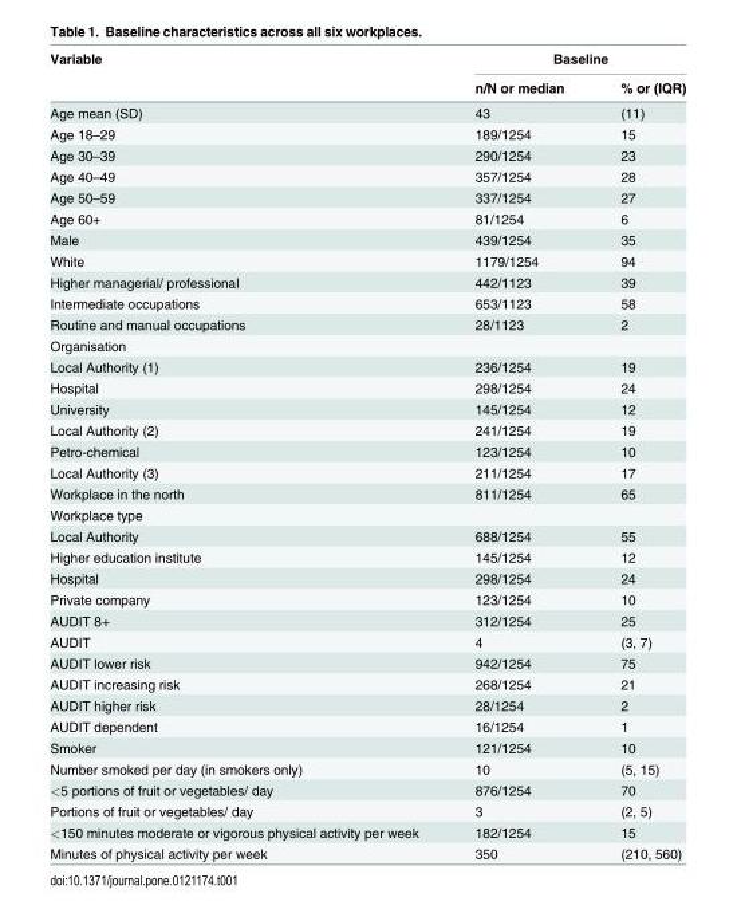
<table><thead><tr><td rowspan="2">Variable</td><td colspan="2">Baseline</td></tr><tr><td>n/N or median</td><td>% or (IQR)</td></tr></thead><tbody><tr><td>Age mean (SD)</td><td>43</td><td>(11)</td></tr><tr><td>Age 18–29</td><td>189/1254</td><td>15</td></tr><tr><td>Age 30–39</td><td>290/1254</td><td>23</td></tr><tr><td>Age 40–49</td><td>357/1254</td><td>28</td></tr><tr><td>Age 50–59</td><td>337/1254</td><td>27</td></tr><tr><td>Age 60+</td><td>81/1254</td><td>6</td></tr><tr><td>Male</td><td>439/1254</td><td>35</td></tr><tr><td>White</td><td>1179/1254</td><td>94</td></tr><tr><td>Higher managerial/ professional</td><td>442/1123</td><td>39</td></tr><tr><td>Intermediate occupations</td><td>653/1123</td><td>58</td></tr><tr><td>Routine and manual occupations</td><td>28/1123</td><td>2</td></tr><tr><td colspan="3">Organisation</td></tr><tr><td>Local Authority (1)</td><td>236/1254</td><td>19</td></tr><tr><td>Hospital</td><td>298/1254</td><td>24</td></tr><tr><td>University</td><td>145/1254</td><td>12</td></tr><tr><td>Local Authority (2)</td><td>241/1254</td><td>19</td></tr><tr><td>Petro-chemical</td><td>123/1254</td><td>10</td></tr><tr><td>Local Authority (3)</td><td>211/1254</td><td>17</td></tr><tr><td>Workplace in the north</td><td>811/1254</td><td>65</td></tr><tr><td colspan="3">Workplace type</td></tr><tr><td>Local Authority</td><td>688/1254</td><td>55</td></tr><tr><td>Higher education institute</td><td>145/1254</td><td>12</td></tr><tr><td>Hospital</td><td>298/1254</td><td>24</td></tr><tr><td>Private company</td><td>123/1254</td><td>10</td></tr><tr><td>AUDIT 8+</td><td>312/1254</td><td>25</td></tr><tr><td>AUDIT</td><td>4</td><td>(3, 7)</td></tr><tr><td>AUDIT lower risk</td><td>942/1254</td><td>75</td></tr><tr><td>AUDIT increasing risk</td><td>268/1254</td><td>21</td></tr><tr><td>AUDIT higher risk</td><td>28/1254</td><td>2</td></tr><tr><td>AUDIT dependent</td><td>16/1254</td><td>1</td></tr><tr><td>Smoker</td><td>121/1254</td><td>10</td></tr><tr><td>Number smoked per day (in smokers only)</td><td>10</td><td>(5, 15)</td></tr><tr><td>&lt;5 portions of fruit or vegetables/ day</td><td>876/1254</td><td>70</td></tr><tr><td>Portions of fruit or vegetables/ day</td><td>3</td><td>(2, 5)</td></tr><tr><td>&lt;150 minutes moderate or vigorous physical activity per week</td><td>182/1254</td><td>15</td></tr><tr><td>Minutes of physical activity per week</td><td>350</td><td>(210, 560)</td></tr></tbody></table>